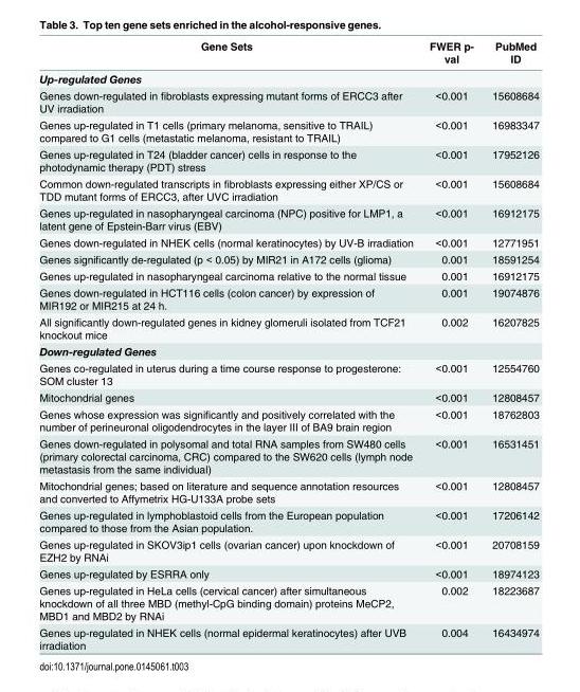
<table><thead><tr><td>Gene Sets</td><td>FWER p- val</td><td>PubMed ID</td></tr></thead><tbody><tr><td colspan="3">Up-regulated Genes</td></tr><tr><td>Genes down-regulated in fibroblasts expressing mutant forms of ERCC3 after UV irradiation</td><td>&lt;0.001</td><td>15608684</td></tr><tr><td>Genes up-regulated in T1 cells (primary melanoma, sensitive to TRAIL) compared to G1 cells (metastatic melanoma, resistant to TRAIL)</td><td>&lt;0.001</td><td>16983347</td></tr><tr><td>Genes up-regulated in T24 (bladder cancer) cells in response to the photodynamic therapy (PDT) stress</td><td>&lt;0.001</td><td>17952126</td></tr><tr><td>Common down-regulated transcripts in fibroblasts expressing either XP/CS or TDD mutant forms of ERCC3, after UVC irradiation</td><td>&lt;0.001</td><td>15608684</td></tr><tr><td>Genes up-regulated in nasopharyngeal carcinoma (NPC) positive for LMP1, a latent gene of Epstein-Barr virus (EBV)</td><td>&lt;0.001</td><td>16912175</td></tr><tr><td>Genes down-regulated in NHEK cells (normal keratinocytes) by UV-B irradiation</td><td>&lt;0.001</td><td>12771951</td></tr><tr><td>Genes significantly de-regulated (p &lt; 0.05) by MIR21 in A172 cells (glioma)</td><td>0.001</td><td>18591254</td></tr><tr><td>Genes up-regulated in nasopharyngeal carcinoma relative to the normal tissue</td><td>0.001</td><td>16912175</td></tr><tr><td>Genes down-regulated in HCT116 cells (colon cancer) by expression of MIR192 or MIR215 at 24 h.</td><td>0.001</td><td>19074876</td></tr><tr><td>All significantly down-regulated genes in kidney glomeruli isolated from TCF21 knockout mice</td><td>0.002</td><td>16207825</td></tr><tr><td colspan="3">Down-regulated Genes</td></tr><tr><td>Genes co-regulated in uterus during a time course response to progesterone: SOM cluster 13</td><td>&lt;0.001</td><td>12554760</td></tr><tr><td>Mitochondrial genes</td><td>&lt;0.001</td><td>12808457</td></tr><tr><td>Genes whose expression was significantly and positively correlated with the number of perineuronal oligodendrocytes in the layer III of BA9 brain region</td><td>&lt;0.001</td><td>18762803</td></tr><tr><td>Genes down-regulated in polysomal and total RNA samples from SW480 cells (primary colorectal carcinoma, CRC) compared to the SW620 cells (lymph node metastasis from the same individual)</td><td>&lt;0.001</td><td>16531451</td></tr><tr><td>Mitochondrial genes; based on literature and sequence annotation resources and converted to Affymetrix HG-U133A probe sets</td><td>&lt;0.001</td><td>12808457</td></tr><tr><td>Genes up-regulated in lymphoblastoid cells from the European population compared to those from the Asian population.</td><td>&lt;0.001</td><td>17206142</td></tr><tr><td>Genes up-regulated in SKOV3ip1 cells (ovarian cancer) upon knockdown of EZH2 by RNAi</td><td>&lt;0.001</td><td>20708159</td></tr><tr><td>Genes up-regulated by ESRRA only</td><td>&lt;0.001</td><td>18974123</td></tr><tr><td>Genes up-regulated in HeLa cells (cervical cancer) after simultaneous knockdown of all three MBD (methyl-CpG binding domain) proteins MeCP2, MBD1 and MBD2 by RNAi</td><td>0.002</td><td>18223687</td></tr><tr><td>Genes up-regulated in NHEK cells (normal epidermal keratinocytes) after UVB irradiation</td><td>0.004</td><td>16434974</td></tr></tbody></table>